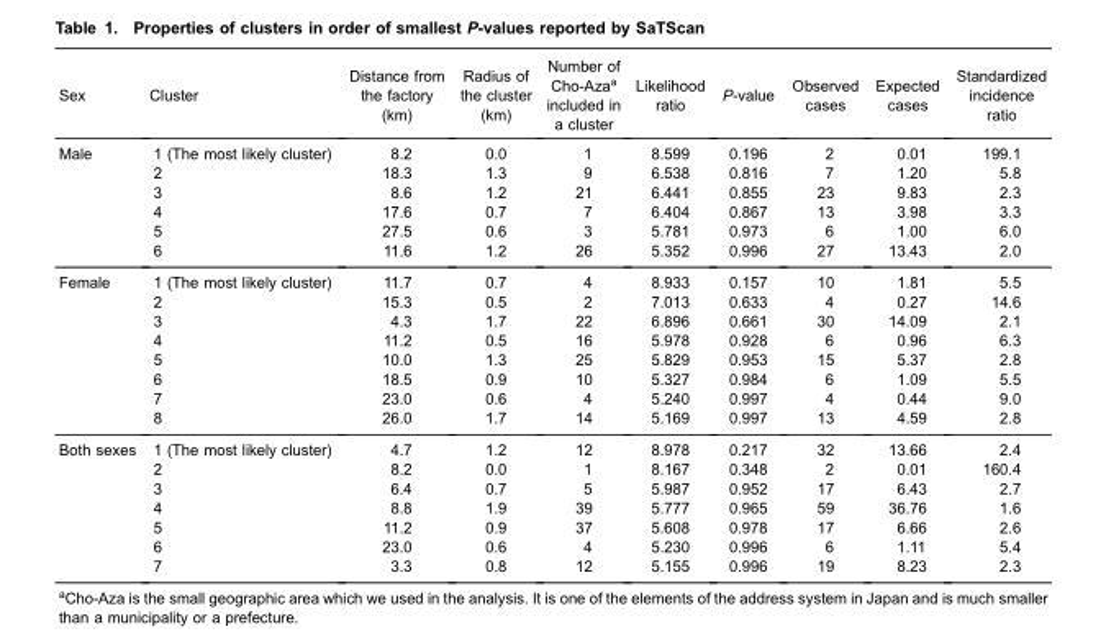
<table><thead><tr><td>Sex</td><td>Cluster</td><td>Distance from the factory (km)</td><td>Radius of the cluster (km)</td><td>Number of Cho-Aza<sup>a</sup> included in a cluster</td><td>Likelihood ratio</td><td>P-value</td><td>Observed cases</td><td>Expected cases</td><td>Standardized incidence ratio</td></tr></thead><tbody><tr><td rowspan="6">Male</td><td>1 (The most likely cluster)</td><td>8.2</td><td>0.0</td><td>1</td><td>8.599</td><td>0.196</td><td>2</td><td>0.01</td><td>199.1</td></tr><tr><td>2</td><td>18.3</td><td>1.3</td><td>9</td><td>6.538</td><td>0.816</td><td>7</td><td>1.20</td><td>5.8</td></tr><tr><td>3</td><td>8.6</td><td>1.2</td><td>21</td><td>6.441</td><td>0.855</td><td>23</td><td>9.83</td><td>2.3</td></tr><tr><td>4</td><td>17.6</td><td>0.7</td><td>7</td><td>6.404</td><td>0.867</td><td>13</td><td>3.98</td><td>3.3</td></tr><tr><td>5</td><td>27.5</td><td>0.6</td><td>3</td><td>5.781</td><td>0.973</td><td>6</td><td>1.00</td><td>6.0</td></tr><tr><td>6</td><td>11.6</td><td>1.2</td><td>26</td><td>5.352</td><td>0.996</td><td>27</td><td>13.43</td><td>2.0</td></tr><tr><td rowspan="8">Female</td><td>1 (The most likely cluster)</td><td>11.7</td><td>0.7</td><td>4</td><td>8.933</td><td>0.157</td><td>10</td><td>1.81</td><td>5.5</td></tr><tr><td>2</td><td>15.3</td><td>0.5</td><td>2</td><td>7.013</td><td>0.633</td><td>4</td><td>0.27</td><td>14.6</td></tr><tr><td>3</td><td>4.3</td><td>1.7</td><td>22</td><td>6.896</td><td>0.661</td><td>30</td><td>14.09</td><td>2.1</td></tr><tr><td>4</td><td>11.2</td><td>0.5</td><td>16</td><td>5.978</td><td>0.928</td><td>6</td><td>0.96</td><td>6.3</td></tr><tr><td>5</td><td>10.0</td><td>1.3</td><td>25</td><td>5.829</td><td>0.953</td><td>15</td><td>5.37</td><td>2.8</td></tr><tr><td>6</td><td>18.5</td><td>0.9</td><td>10</td><td>5.327</td><td>0.984</td><td>6</td><td>1.09</td><td>5.5</td></tr><tr><td>7</td><td>23.0</td><td>0.6</td><td>4</td><td>5.240</td><td>0.997</td><td>4</td><td>0.44</td><td>9.0</td></tr><tr><td>8</td><td>26.0</td><td>1.7</td><td>14</td><td>5.169</td><td>0.997</td><td>13</td><td>4.59</td><td>2.8</td></tr><tr><td rowspan="7">Both sexes</td><td>1 (The most likely cluster)</td><td>4.7</td><td>1.2</td><td>12</td><td>8.978</td><td>0.217</td><td>32</td><td>13.66</td><td>2.4</td></tr><tr><td>2</td><td>8.2</td><td>0.0</td><td>1</td><td>8.167</td><td>0.348</td><td>2</td><td>0.01</td><td>160.4</td></tr><tr><td>3</td><td>6.4</td><td>0.7</td><td>5</td><td>5.987</td><td>0.952</td><td>17</td><td>6.43</td><td>2.7</td></tr><tr><td>4</td><td>8.8</td><td>1.9</td><td>39</td><td>5.777</td><td>0.965</td><td>59</td><td>36.76</td><td>1.6</td></tr><tr><td>5</td><td>11.2</td><td>0.9</td><td>37</td><td>5.608</td><td>0.978</td><td>17</td><td>6.66</td><td>2.6</td></tr><tr><td>6</td><td>23.0</td><td>0.6</td><td>4</td><td>5.230</td><td>0.996</td><td>6</td><td>1.11</td><td>5.4</td></tr><tr><td>7</td><td>3.3</td><td>0.8</td><td>12</td><td>5.155</td><td>0.996</td><td>19</td><td>8.23</td><td>2.3</td></tr></tbody></table>